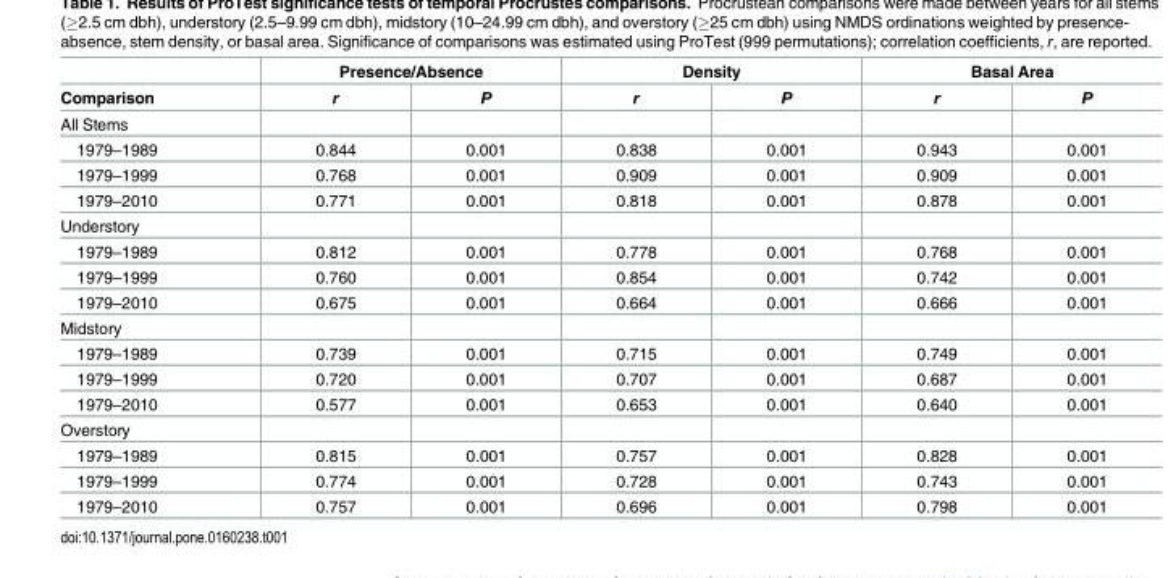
<table><thead><tr><td rowspan="2">Comparison</td><td colspan="2">Presence/Absence</td><td colspan="2">Density</td><td colspan="2">Basal Area</td></tr><tr><td>r</td><td>P</td><td>r</td><td>P</td><td>r</td><td>P</td></tr></thead><tbody><tr><td colspan="7">All Stems</td></tr><tr><td>1979–1989</td><td>0.844</td><td>0.001</td><td>0.838</td><td>0.001</td><td>0.943</td><td>0.001</td></tr><tr><td>1979–1999</td><td>0.768</td><td>0.001</td><td>0.909</td><td>0.001</td><td>0.909</td><td>0.001</td></tr><tr><td>1979–2010</td><td>0.771</td><td>0.001</td><td>0.818</td><td>0.001</td><td>0.878</td><td>0.001</td></tr><tr><td colspan="7">Understory</td></tr><tr><td>1979–1989</td><td>0.812</td><td>0.001</td><td>0.778</td><td>0.001</td><td>0.768</td><td>0.001</td></tr><tr><td>1979–1999</td><td>0.760</td><td>0.001</td><td>0.854</td><td>0.001</td><td>0.742</td><td>0.001</td></tr><tr><td>1979–2010</td><td>0.675</td><td>0.001</td><td>0.664</td><td>0.001</td><td>0.666</td><td>0.001</td></tr><tr><td colspan="7">Midstory</td></tr><tr><td>1979–1989</td><td>0.739</td><td>0.001</td><td>0.715</td><td>0.001</td><td>0.749</td><td>0.001</td></tr><tr><td>1979–1999</td><td>0.720</td><td>0.001</td><td>0.707</td><td>0.001</td><td>0.687</td><td>0.001</td></tr><tr><td>1979–2010</td><td>0.577</td><td>0.001</td><td>0.653</td><td>0.001</td><td>0.640</td><td>0.001</td></tr><tr><td colspan="7">Overstory</td></tr><tr><td>1979–1989</td><td>0.815</td><td>0.001</td><td>0.757</td><td>0.001</td><td>0.828</td><td>0.001</td></tr><tr><td>1979–1999</td><td>0.774</td><td>0.001</td><td>0.728</td><td>0.001</td><td>0.743</td><td>0.001</td></tr><tr><td>1979–2010</td><td>0.757</td><td>0.001</td><td>0.696</td><td>0.001</td><td>0.798</td><td>0.001</td></tr></tbody></table>